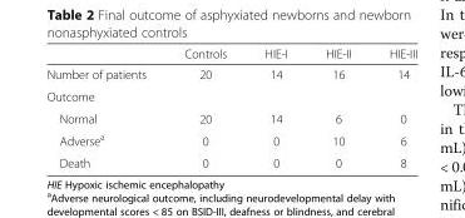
<table><thead><tr><td></td><td>Controls</td><td>HIE-I</td><td>HIE-II</td><td>HIE-III</td></tr></thead><tbody><tr><td>Number of patients</td><td>20</td><td>14</td><td>16</td><td>14</td></tr><tr><td colspan="5">Outcome</td></tr><tr><td>Normal</td><td>20</td><td>14</td><td>6</td><td>0</td></tr><tr><td>Adverse<sup>a</sup></td><td>0</td><td>0</td><td>10</td><td>6</td></tr><tr><td>Death</td><td>0</td><td>0</td><td>0</td><td>8</td></tr></tbody></table>